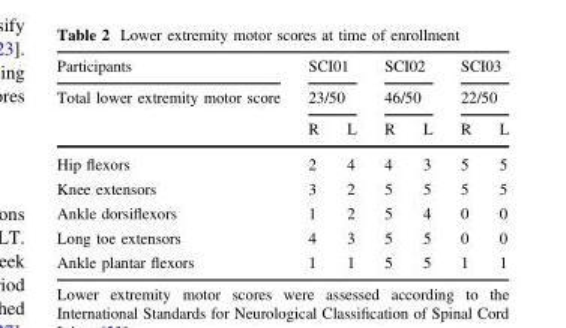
<table><thead><tr><td rowspan="3">Participants Total lower extremity motor score</td><td rowspan="2" colspan="2">SCI01 23/50</td><td rowspan="2" colspan="2">SCI02 46/50</td><td rowspan="2" colspan="2">SCI03 22/50</td></tr><tr></tr><tr><td>R</td><td>L</td><td>R</td><td>L</td><td>R</td><td>L</td></tr></thead><tbody><tr><td>Hip flexors</td><td>2</td><td>4</td><td>4</td><td>3</td><td>5</td><td>5</td></tr><tr><td>Knee extensors</td><td>3</td><td>2</td><td>5</td><td>5</td><td>5</td><td>5</td></tr><tr><td>Ankle dorsiflexors</td><td>1</td><td>2</td><td>5</td><td>4</td><td>0</td><td>0</td></tr><tr><td>Long toe extensors</td><td>4</td><td>3</td><td>5</td><td>5</td><td>0</td><td>0</td></tr><tr><td>Ankle plantar flexors</td><td>1</td><td>1</td><td>5</td><td>5</td><td>1</td><td>1</td></tr></tbody></table>